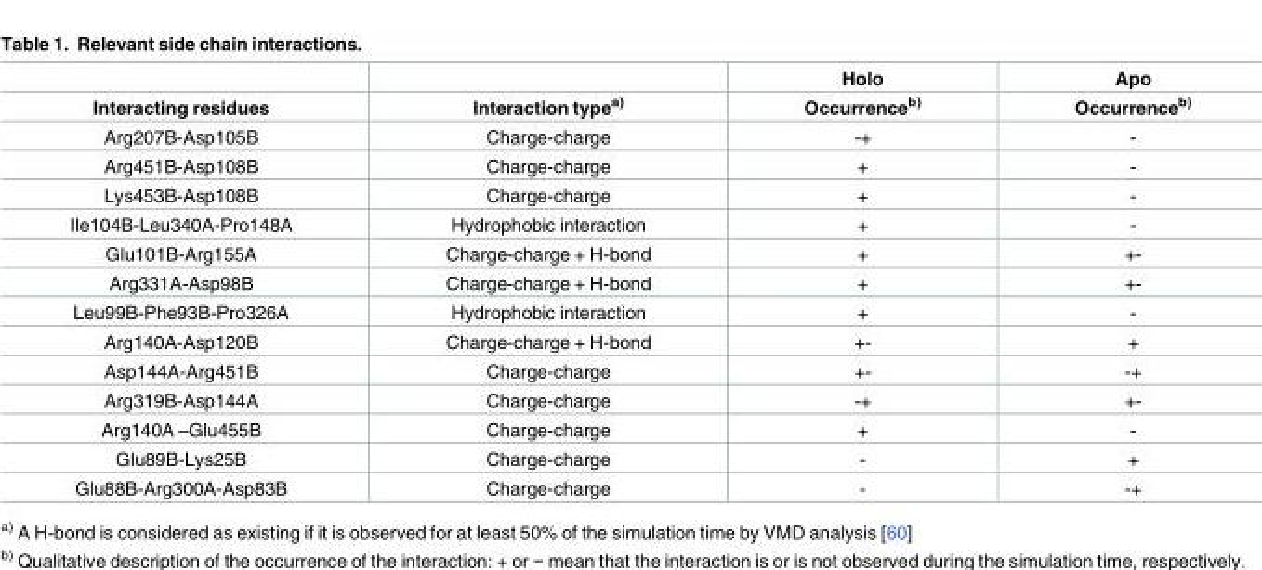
<table><thead><tr><td rowspan="2">Interacting residues</td><td rowspan="2">Interaction type<sup>a)</sup></td><td rowspan="2">Holo Occurrence<sup>b)</sup></td><td rowspan="2">Apo Occurrence<sup>b)</sup></td></tr><tr></tr></thead><tbody><tr><td>Arg207B-Asp105B</td><td>Charge-charge</td><td>-+</td><td>-</td></tr><tr><td>Arg451B-Asp108B</td><td>Charge-charge</td><td>+</td><td>-</td></tr><tr><td>Lys453B-Asp108B</td><td>Charge-charge</td><td>+</td><td>-</td></tr><tr><td>Ile104B-Leu340A-Pro148A</td><td>Hydrophobic interaction</td><td>+</td><td>-</td></tr><tr><td>Glu101B-Arg155A</td><td>Charge-charge + H-bond</td><td>+</td><td>+-</td></tr><tr><td>Arg331A-Asp98B</td><td>Charge-charge + H-bond</td><td>+</td><td>+-</td></tr><tr><td>Leu99B-Phe93B-Pro326A</td><td>Hydrophobic interaction</td><td>+</td><td>-</td></tr><tr><td>Arg140A-Asp120B</td><td>Charge-charge + H-bond</td><td>+-</td><td>+</td></tr><tr><td>Asp144A-Arg451B</td><td>Charge-charge</td><td>+-</td><td>-+</td></tr><tr><td>Arg319B-Asp144A</td><td>Charge-charge</td><td>-+</td><td>+-</td></tr><tr><td>Arg140A –Glu455B</td><td>Charge-charge</td><td>+</td><td>-</td></tr><tr><td>Glu89B-Lys25B</td><td>Charge-charge</td><td>-</td><td>+</td></tr><tr><td>Glu88B-Arg300A-Asp83B</td><td>Charge-charge</td><td>-</td><td>-+</td></tr></tbody></table>